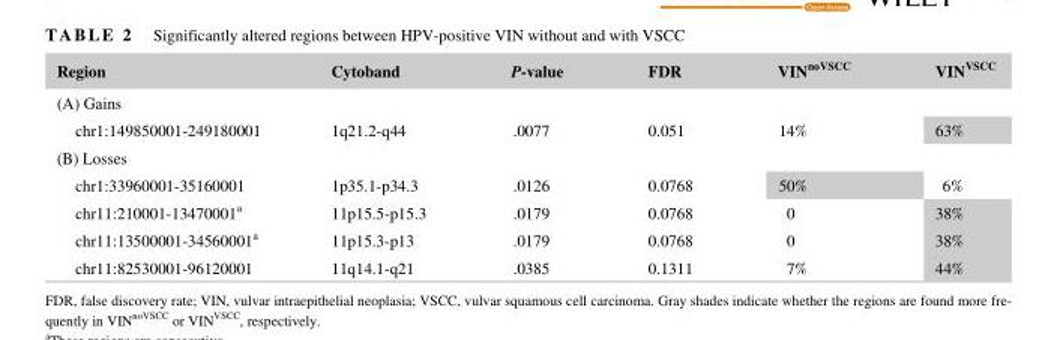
<table><thead><tr><td>Region</td><td>Cytoband</td><td>P- value</td><td>FDR</td><td>VIN<sup>noVSCC</sup></td><td>VIN<sup>VSCC</sup></td></tr></thead><tbody><tr><td colspan="6">(A) Gains</td></tr><tr><td>chr1:149850001- 249180001</td><td>1q21.2- q44</td><td>.0077</td><td>0.051</td><td>14%</td><td>63%</td></tr><tr><td colspan="6">(B) Losses</td></tr><tr><td>chr1:33960001- 35160001</td><td>1p35.1- p34.3</td><td>.0126</td><td>0.0768</td><td>50%</td><td>6%</td></tr><tr><td>chr11:210001- 13470001<sup>a</sup></td><td>11p15.5- p15.3</td><td>.0179</td><td>0.0768</td><td>0</td><td>38%</td></tr><tr><td>chr11:13500001- 34560001<sup>a</sup></td><td>11p15.3- p13</td><td>.0179</td><td>0.0768</td><td>0</td><td>38%</td></tr><tr><td>chr11:82530001- 96120001</td><td>11q14.1- q21</td><td>.0385</td><td>0.1311</td><td>7%</td><td>44%</td></tr></tbody></table>